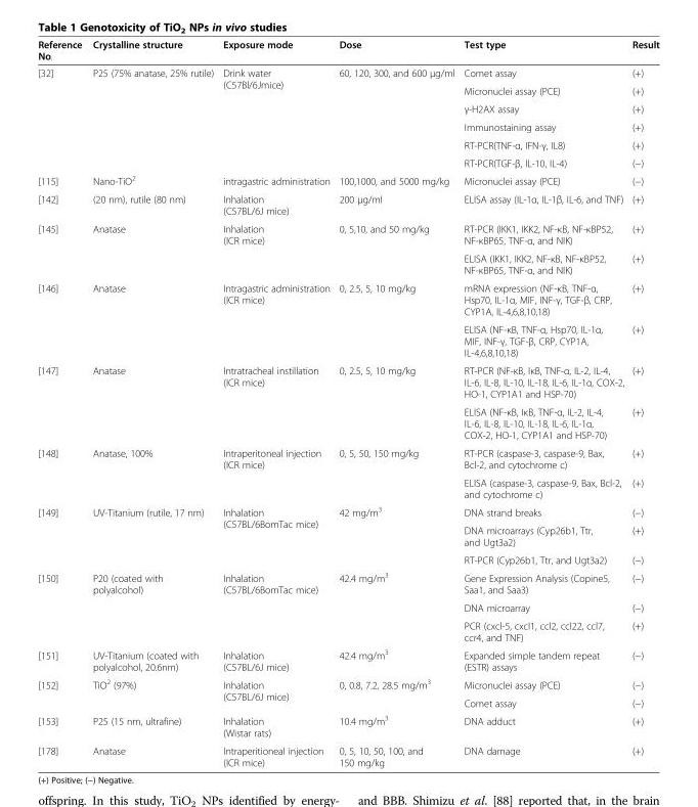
<table><thead><tr><td>Reference No.</td><td>Crystalline structure</td><td>Exposure mode</td><td>Dose</td><td>Test type</td><td>Result</td></tr></thead><tbody><tr><td rowspan="6">[32]</td><td rowspan="6">P25 (75% anatase, 25% rutile)</td><td rowspan="6">Drink water (C57Bl/6Jmice)</td><td rowspan="6">60, 120, 300, and 600 μg/ml</td><td>Comet assay</td><td>(+)</td></tr><tr><td>Micronuclei assay (PCE)</td><td>(+)</td></tr><tr><td>γ-H2AX assay</td><td>(+)</td></tr><tr><td>Immunostaining assay</td><td>(+)</td></tr><tr><td>RT-PCR(TNF-α, IFN-γ, IL8)</td><td>(+)</td></tr><tr><td>RT-PCR(TGF-β, IL-10, IL-4)</td><td>(−)</td></tr><tr><td>[115]</td><td>Nano-TiO<sup>2</sup></td><td>intragastric administration</td><td>100,1000, and 5000 mg/kg</td><td>Micronuclei assay (PCE)</td><td>(−)</td></tr><tr><td>[142]</td><td>(20 nm), rutile (80 nm)</td><td>Inhalation (C57BL/6J mice)</td><td>200 μg/ml</td><td>ELISA assay (IL-1α, IL-1β, IL-6, and TNF)</td><td>(+)</td></tr><tr><td rowspan="2">[145]</td><td rowspan="2">Anatase</td><td rowspan="2">Inhalation (ICR mice)</td><td rowspan="2">0, 5,10, and 50 mg/kg</td><td>RT-PCR (IKK1, IKK2, NF-κB, NF-κBP52, NF-κBP65, TNF-α, and NIK)</td><td>(+)</td></tr><tr><td>ELISA (IKK1, IKK2, NF-κB, NF-κBP52, NF-κBP65, TNF-α, and NIK)</td><td>(+)</td></tr><tr><td rowspan="2">[146]</td><td rowspan="2">Anatase</td><td rowspan="2">Intragastric administration (ICR mice)</td><td rowspan="2">0, 2.5, 5, 10 mg/kg</td><td>mRNA expression (NF-κB, TNF-α, Hsp70, IL-1α, MIF, INF-γ, TGF-β, CRP, CYP1A, IL-4,6,8,10,18)</td><td>(+)</td></tr><tr><td>ELISA (NF-κB, TNF-α, Hsp70, IL-1α, MIF, INF-γ, TGF-β, CRP, CYP1A, IL-4,6,8,10,18)</td><td>(+)</td></tr><tr><td rowspan="2">[147]</td><td rowspan="2">Anatase</td><td rowspan="2">Intratracheal instillation (ICR mice)</td><td rowspan="2">0, 2.5, 5, 10 mg/kg</td><td>RT-PCR (NF-κB, IκB, TNF-α, IL-2, IL-4, IL-6, IL-8, IL-10, IL-18, IL-6, IL-1α, COX-2, HO-1, CYP1A1 and HSP-70)</td><td>(+)</td></tr><tr><td>ELISA (NF-κB, IκB, TNF-α, IL-2, IL-4, IL-6, IL-8, IL-10, IL-18, IL-6, IL-1α, COX-2, HO-1, CYP1A1 and HSP-70)</td><td>(+)</td></tr><tr><td rowspan="2">[148]</td><td rowspan="2">Anatase, 100%</td><td rowspan="2">Intraperitoneal injection (ICR mice)</td><td rowspan="2">0, 5, 50, 150 mg/kg</td><td>RT-PCR (caspase-3, caspase-9, Bax, Bcl-2, and cytochrome c)</td><td>(+)</td></tr><tr><td>ELISA (caspase-3, caspase-9, Bax, Bcl-2, and cytochrome c)</td><td>(+)</td></tr><tr><td rowspan="3">[149]</td><td rowspan="3">UV-Titanium (rutile, 17 nm)</td><td rowspan="3">Inhalation (C57BL/6BomTac mice)</td><td rowspan="3">42 mg/m<sup>3</sup></td><td>DNA strand breaks</td><td>(−)</td></tr><tr><td>DNA microarrays (Cyp26b1, Ttr, and Ugt3a2)</td><td>(+)</td></tr><tr><td>RT-PCR (Cyp26b1, Ttr, and Ugt3a2)</td><td>(−)</td></tr><tr><td rowspan="3">[150]</td><td rowspan="3">P20 (coated with polyalcohol)</td><td rowspan="3">Inhalation (C57BL/6BomTac mice)</td><td rowspan="3">42.4 mg/m<sup>3</sup></td><td>Gene Expression Analysis (Copine5, Saa1, and Saa3)</td><td>(−)</td></tr><tr><td>DNA microarray</td><td>(−)</td></tr><tr><td>PCR (cxcl-5, cxcl1, ccl2, ccl22, ccl7, ccr4, and TNF)</td><td>(+)</td></tr><tr><td>[151]</td><td>UV-Titanium (coated with polyalcohol, 20.6nm)</td><td>Inhalation (C57BL/6J mice)</td><td>42.4 mg/m<sup>3</sup></td><td>Expanded simple tandem repeat (ESTR) assays</td><td>(−)</td></tr><tr><td rowspan="2">[152]</td><td rowspan="2">TiO<sup>2</sup> (97%)</td><td rowspan="2">Inhalation (C57BL/6J mice)</td><td rowspan="2">0, 0.8, 7.2, 28.5 mg/m<sup>3</sup></td><td>Micronuclei assay (PCE)</td><td>(−)</td></tr><tr><td>Comet assay</td><td>(−)</td></tr><tr><td>[153]</td><td>P25 (15 nm, ultrafine)</td><td>Inhalation (Wistar rats)</td><td>10.4 mg/m<sup>3</sup></td><td>DNA adduct</td><td>(+)</td></tr><tr><td>[178]</td><td>Anatase</td><td>Intraperitioneal injection (ICR mice)</td><td>0, 5, 10, 50, 100, and 150 mg/kg</td><td>DNA damage</td><td>(+)</td></tr></tbody></table>